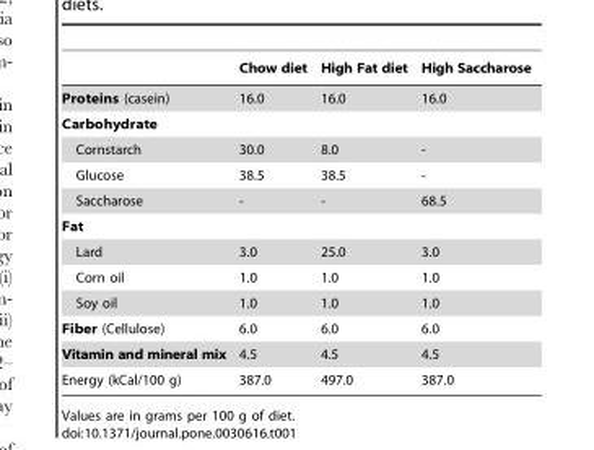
<table><thead><tr><td></td><td>Chow diet</td><td>High Fat diet</td><td>High Saccharose</td></tr></thead><tbody><tr><td>Proteins (casein)</td><td>16.0</td><td>16.0</td><td>16.0</td></tr><tr><td colspan="4">Carbohydrate</td></tr><tr><td>Cornstarch</td><td>30.0</td><td>8.0</td><td>-</td></tr><tr><td>Glucose</td><td>38.5</td><td>38.5</td><td>-</td></tr><tr><td>Saccharose</td><td>-</td><td>-</td><td>68.5</td></tr><tr><td colspan="4">Fat</td></tr><tr><td>Lard</td><td>3.0</td><td>25.0</td><td>3.0</td></tr><tr><td>Corn oil</td><td>1.0</td><td>1.0</td><td>1.0</td></tr><tr><td>Soy oil</td><td>1.0</td><td>1.0</td><td>1.0</td></tr><tr><td>Fiber (Cellulose)</td><td>6.0</td><td>6.0</td><td>6.0</td></tr><tr><td>Vitamin and mineral mix</td><td>4.5</td><td>4.5</td><td>4.5</td></tr><tr><td>Energy (kCal/100 g)</td><td>387.0</td><td>497.0</td><td>387.0</td></tr></tbody></table>